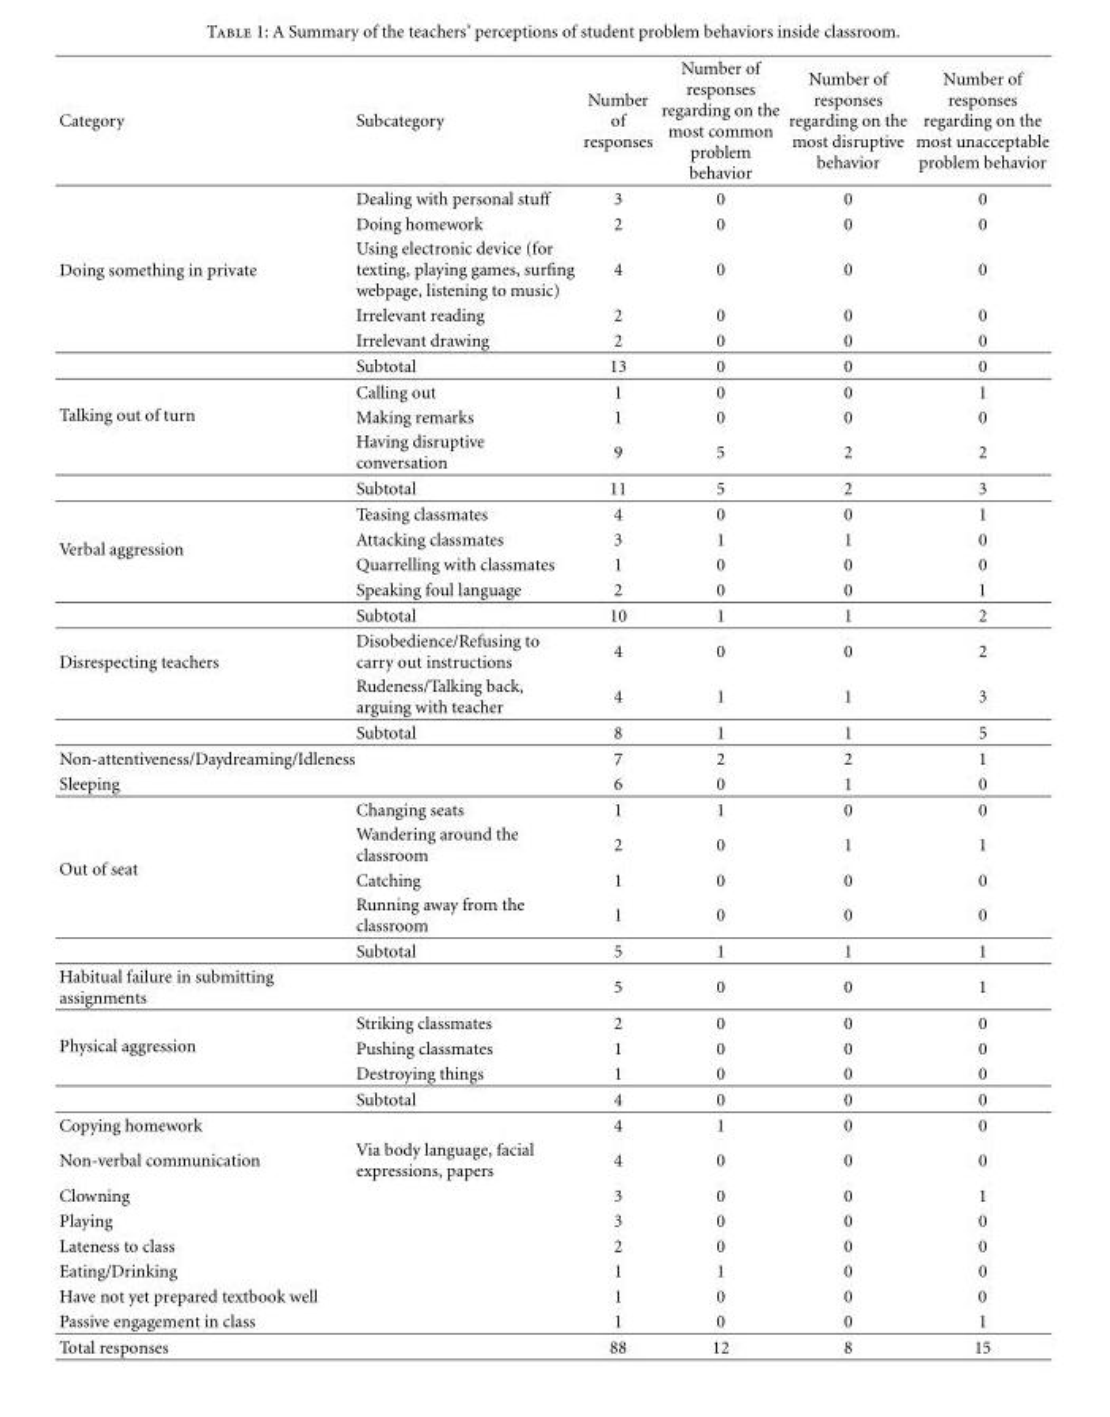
<table><thead><tr><td>Category</td><td>Subcategory</td><td>Number of responses</td><td>Number of responses regarding on the most common problem behavior</td><td>Number of responses regarding on the most disruptive behavior</td><td>Number of responses regarding on the most unacceptable problem behavior</td></tr></thead><tbody><tr><td></td><td>Dealing with personal stuff</td><td>3</td><td>0</td><td>0</td><td>0</td></tr><tr><td></td><td>Doing homework</td><td>2</td><td>0</td><td>0</td><td>0</td></tr><tr><td rowspan="4">Doing something in private</td><td>Using electronic device (for texting, playing games, surfing webpage, listening to music)</td><td>4</td><td>0</td><td>0</td><td>0</td></tr><tr><td>Irrelevant reading</td><td>2</td><td>0</td><td>0</td><td>0</td></tr><tr><td>Irrelevant drawing</td><td>2</td><td>0</td><td>0</td><td>0</td></tr><tr><td>Subtotal</td><td>13</td><td>0</td><td>0</td><td>0</td></tr><tr><td rowspan="4">Talking out of turn</td><td>Calling out</td><td>1</td><td>0</td><td>0</td><td>1</td></tr><tr><td>Making remarks</td><td>1</td><td>0</td><td>0</td><td>0</td></tr><tr><td>Having disruptive conversation</td><td>9</td><td>5</td><td>2</td><td>2</td></tr><tr><td>Subtotal</td><td>11</td><td>5</td><td>2</td><td>3</td></tr><tr><td rowspan="5">Verbal aggression</td><td>Teasing classmates</td><td>4</td><td>0</td><td>0</td><td>1</td></tr><tr><td>Attacking classmates</td><td>3</td><td>1</td><td>1</td><td>0</td></tr><tr><td>Quarrelling with classmates</td><td>1</td><td>0</td><td>0</td><td>0</td></tr><tr><td>Speaking foul language</td><td>2</td><td>0</td><td>0</td><td>1</td></tr><tr><td>Subtotal</td><td>10</td><td>1</td><td>1</td><td>2</td></tr><tr><td rowspan="3">Disrespecting teachers</td><td>Disobedience/Refusing to carry out instructions</td><td>4</td><td>0</td><td>0</td><td>2</td></tr><tr><td>Rudeness/Talking back, arguing with teacher</td><td>4</td><td>1</td><td>1</td><td>3</td></tr><tr><td>Subtotal</td><td>8</td><td>1</td><td>1</td><td>5</td></tr><tr><td>Non-attentiveness/Daydreaming/Idleness</td><td></td><td>7</td><td>2</td><td>2</td><td>1</td></tr><tr><td>Sleeping</td><td></td><td>6</td><td>0</td><td>1</td><td>0</td></tr><tr><td rowspan="5">Out of seat</td><td>Changing seats</td><td>1</td><td>1</td><td>0</td><td>0</td></tr><tr><td>Wandering around the classroom</td><td>2</td><td>0</td><td>1</td><td>1</td></tr><tr><td>Catching</td><td>1</td><td>0</td><td>0</td><td>0</td></tr><tr><td>Running away from the classroom</td><td>1</td><td>0</td><td>0</td><td>0</td></tr><tr><td>Subtotal</td><td>5</td><td>1</td><td>1</td><td>1</td></tr><tr><td>Habitual failure in submitting assignments</td><td></td><td>5</td><td>0</td><td>0</td><td>1</td></tr><tr><td rowspan="4">Physical aggression</td><td>Striking classmates</td><td>2</td><td>0</td><td>0</td><td>0</td></tr><tr><td>Pushing classmates</td><td>1</td><td>0</td><td>0</td><td>0</td></tr><tr><td>Destroying things</td><td>1</td><td>0</td><td>0</td><td>0</td></tr><tr><td>Subtotal</td><td>4</td><td>0</td><td>0</td><td>0</td></tr><tr><td>Copying homework</td><td></td><td>4</td><td>1</td><td>0</td><td>0</td></tr><tr><td>Non-verbal communication</td><td>Via body language, facial expressions, papers</td><td>4</td><td>0</td><td>0</td><td>0</td></tr><tr><td>Clowning</td><td></td><td>3</td><td>0</td><td>0</td><td>1</td></tr><tr><td>Playing</td><td></td><td>3</td><td>0</td><td>0</td><td>0</td></tr><tr><td>Lateness to class</td><td></td><td>2</td><td>0</td><td>0</td><td>0</td></tr><tr><td>Eating/Drinking</td><td></td><td>1</td><td>1</td><td>0</td><td>0</td></tr><tr><td>Have not yet prepared textbook well</td><td></td><td>1</td><td>0</td><td>0</td><td>0</td></tr><tr><td>Passive engagement in class</td><td></td><td>1</td><td>0</td><td>0</td><td>1</td></tr><tr><td>Total responses</td><td></td><td>88</td><td>12</td><td>8</td><td>15</td></tr></tbody></table>